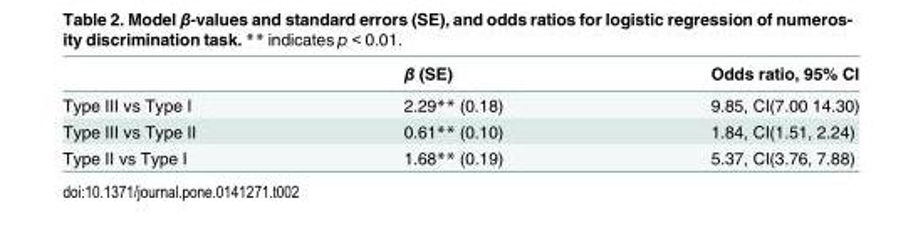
<table><thead><tr><td></td><td>β (SE)</td><td>Odds ratio, 95% CI</td></tr></thead><tbody><tr><td>Type III vs Type I</td><td>2.29** (0.18)</td><td>9.85, CI(7.00 14.30)</td></tr><tr><td>Type III vs Type II</td><td>0.61** (0.10)</td><td>1.84, CI(1.51, 2.24)</td></tr><tr><td>Type II vs Type I</td><td>1.68** (0.19)</td><td>5.37, CI(3.76, 7.88)</td></tr></tbody></table>